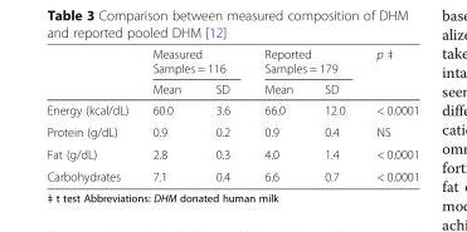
<table><thead><tr><td rowspan="2"></td><td colspan="2">Measured Samples = 116</td><td colspan="2">Reported Samples = 179</td><td rowspan="2">p ‡</td></tr><tr><td>Mean</td><td>SD</td><td>Mean</td><td>SD</td></tr></thead><tbody><tr><td>Energy (kcal/dL)</td><td>60.0</td><td>3.6</td><td>66.0</td><td>12.0</td><td>&lt; 0.0001</td></tr><tr><td>Protein (g/dL)</td><td>0.9</td><td>0.2</td><td>0.9</td><td>0.4</td><td>NS</td></tr><tr><td>Fat (g/dL)</td><td>2.8</td><td>0.3</td><td>4.0</td><td>1.4</td><td>&lt; 0.0001</td></tr><tr><td>Carbohydrates</td><td>7.1</td><td>0.4</td><td>6.6</td><td>0.7</td><td>&lt; 0.0001</td></tr></tbody></table>